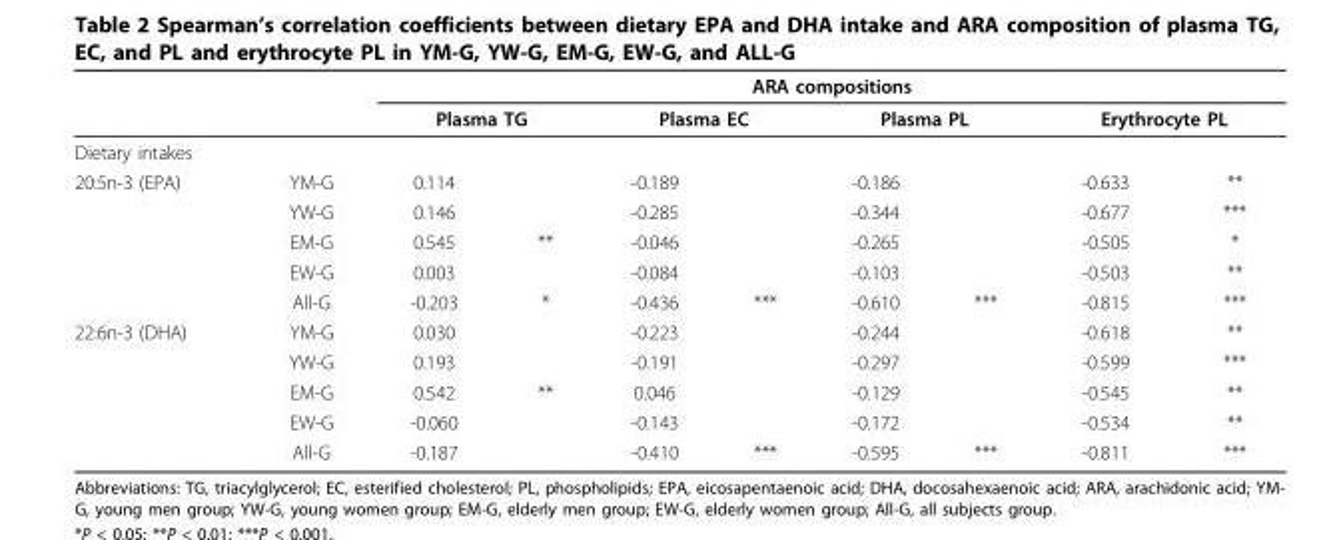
<table><thead><tr><td rowspan="2"></td><td rowspan="2"></td><td colspan="8">ARA compositions</td></tr><tr><td colspan="2">Plasma TG</td><td colspan="2">Plasma EC</td><td colspan="2">Plasma PL</td><td colspan="2">Erythrocyte PL</td></tr><tr><td colspan="2">Dietary intakes</td><td></td><td></td><td></td><td></td><td></td><td></td><td></td><td></td></tr></thead><tbody><tr><td rowspan="5">20:5n-3 (EPA)</td><td>YM-G</td><td>0.114</td><td></td><td>-0.189</td><td></td><td>-0.186</td><td></td><td>-0.633</td><td>**</td></tr><tr><td>YW-G</td><td>0.146</td><td></td><td>-0.285</td><td></td><td>-0.344</td><td></td><td>-0.677</td><td>***</td></tr><tr><td>EM-G</td><td>0.545</td><td>**</td><td>-0.046</td><td></td><td>-0.265</td><td></td><td>-0.505</td><td>*</td></tr><tr><td>EW-G</td><td>0.003</td><td></td><td>-0.084</td><td></td><td>-0.103</td><td></td><td>-0.503</td><td>**</td></tr><tr><td>All-G</td><td>-0.203</td><td>*</td><td>-0.436</td><td>***</td><td>-0.610</td><td>***</td><td>-0.815</td><td>***</td></tr><tr><td rowspan="5">22:6n-3 (DHA)</td><td>YM-G</td><td>0.030</td><td></td><td>-0.223</td><td></td><td>-0.244</td><td></td><td>-0.618</td><td>**</td></tr><tr><td>YW-G</td><td>0.193</td><td></td><td>-0.191</td><td></td><td>-0.297</td><td></td><td>-0.599</td><td>***</td></tr><tr><td>EM-G</td><td>0.542</td><td>**</td><td>0.046</td><td></td><td>-0.129</td><td></td><td>-0.545</td><td>**</td></tr><tr><td>EW-G</td><td>-0.060</td><td></td><td>-0.143</td><td></td><td>-0.172</td><td></td><td>-0.534</td><td>**</td></tr><tr><td>All-G</td><td>-0.187</td><td></td><td>-0.410</td><td>***</td><td>-0.595</td><td>***</td><td>-0.811</td><td>***</td></tr></tbody></table>